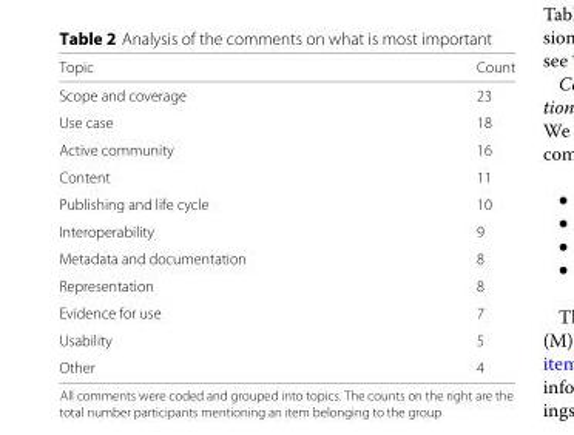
<table><thead><tr><td>Topic</td><td>Count</td></tr></thead><tbody><tr><td>Scope and coverage</td><td>23</td></tr><tr><td>Use case</td><td>18</td></tr><tr><td>Active community</td><td>16</td></tr><tr><td>Content</td><td>11</td></tr><tr><td>Publishing and life cycle</td><td>10</td></tr><tr><td>Interoperability</td><td>9</td></tr><tr><td>Metadata and documentation</td><td>8</td></tr><tr><td>Representation</td><td>8</td></tr><tr><td>Evidence for use</td><td>7</td></tr><tr><td>Usability</td><td>5</td></tr><tr><td>Other</td><td>4</td></tr></tbody></table>